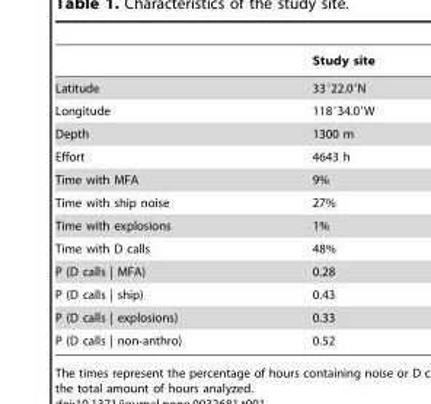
<table><thead><tr><td></td><td>Study site</td></tr></thead><tbody><tr><td>Latitude</td><td>33°22.0′N</td></tr><tr><td>Longitude</td><td>118°34.0′W</td></tr><tr><td>Depth</td><td>1300 m</td></tr><tr><td>Effort</td><td>4643 h</td></tr><tr><td>Time with MFA</td><td>9%</td></tr><tr><td>Time with ship noise</td><td>27%</td></tr><tr><td>Time with explosions</td><td>1%</td></tr><tr><td>Time with D calls</td><td>48%</td></tr><tr><td>P (D calls | MFA)</td><td>0.28</td></tr><tr><td>P (D calls | ship)</td><td>0.43</td></tr><tr><td>P (D calls | explosions)</td><td>0.33</td></tr><tr><td>P (D calls | non-anthro)</td><td>0.52</td></tr></tbody></table>